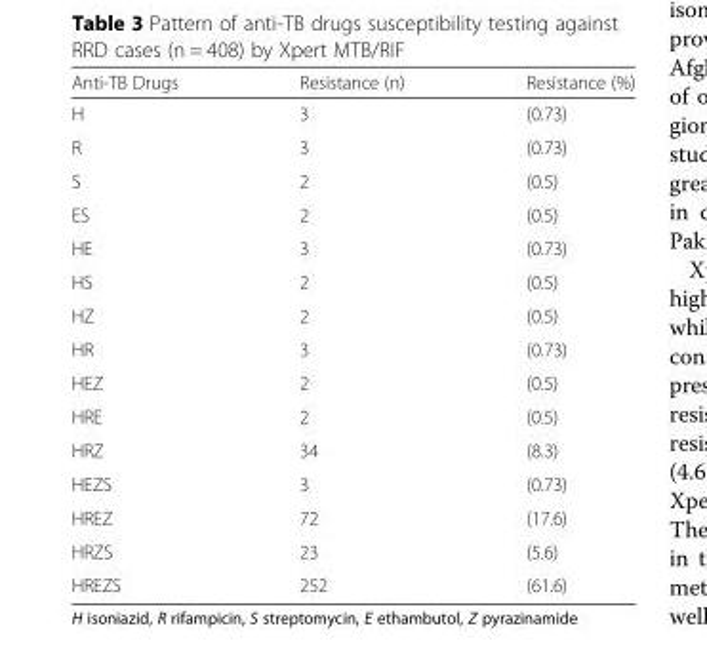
<table><thead><tr><td>Anti-TB Drugs</td><td>Resistance (n)</td><td>Resistance (%)</td></tr></thead><tbody><tr><td>H</td><td>3</td><td>(0.73)</td></tr><tr><td>R</td><td>3</td><td>(0.73)</td></tr><tr><td>S</td><td>2</td><td>(0.5)</td></tr><tr><td>ES</td><td>2</td><td>(0.5)</td></tr><tr><td>HE</td><td>3</td><td>(0.73)</td></tr><tr><td>HS</td><td>2</td><td>(0.5)</td></tr><tr><td>HZ</td><td>2</td><td>(0.5)</td></tr><tr><td>HR</td><td>3</td><td>(0.73)</td></tr><tr><td>HEZ</td><td>2</td><td>(0.5)</td></tr><tr><td>HRE</td><td>2</td><td>(0.5)</td></tr><tr><td>HRZ</td><td>34</td><td>(8.3)</td></tr><tr><td>HEZS</td><td>3</td><td>(0.73)</td></tr><tr><td>HREZ</td><td>72</td><td>(17.6)</td></tr><tr><td>HRZS</td><td>23</td><td>(5.6)</td></tr><tr><td>HREZS</td><td>252</td><td>(61.6)</td></tr></tbody></table>